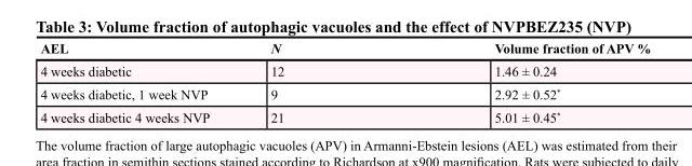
<table><thead><tr><td>AEL</td><td>N</td><td>Volume fraction of APV %</td></tr></thead><tbody><tr><td>4 weeks diabetic</td><td>12</td><td>1.46 ± 0.24</td></tr><tr><td>4 weeks diabetic, 1 week NVP</td><td>9</td><td>2.92 ± 0.52*</td></tr><tr><td>4 weeks diabetic 4 weeks NVP</td><td>21</td><td>5.01 ± 0.45*</td></tr></tbody></table>